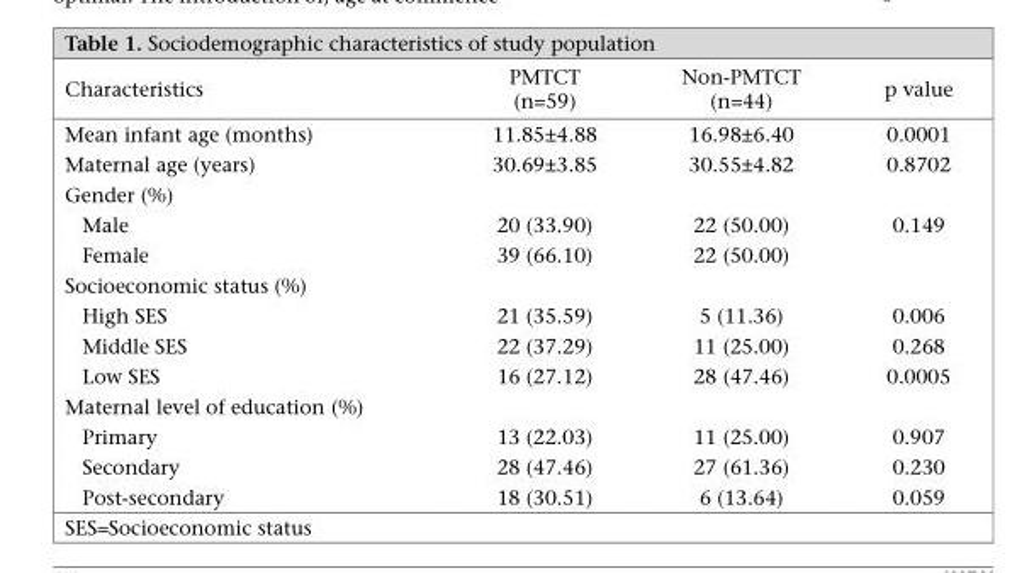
<table><thead><tr><td>Characteristics</td><td>PMTCT (n=59)</td><td>Non-PMTCT (n=44)</td><td>p value</td></tr></thead><tbody><tr><td>Mean infant age (months)</td><td>11.85±4.88</td><td>16.98±6.40</td><td>0.0001</td></tr><tr><td>Maternal age (years)</td><td>30.69±3.85</td><td>30.55±4.82</td><td>0.8702</td></tr><tr><td colspan="4">Gender (%)</td></tr><tr><td>Male</td><td>20 (33.90)</td><td>22 (50.00)</td><td>0.149</td></tr><tr><td>Female</td><td>39 (66.10)</td><td>22 (50.00)</td><td></td></tr><tr><td colspan="4">Socioeconomic status (%)</td></tr><tr><td>High SES</td><td>21 (35.59)</td><td>5 (11.36)</td><td>0.006</td></tr><tr><td>Middle SES</td><td>22 (37.29)</td><td>11 (25.00)</td><td>0.268</td></tr><tr><td>Low SES</td><td>16 (27.12)</td><td>28 (47.46)</td><td>0.0005</td></tr><tr><td colspan="4">Maternal level of education (%)</td></tr><tr><td>Primary</td><td>13 (22.03)</td><td>11 (25.00)</td><td>0.907</td></tr><tr><td>Secondary</td><td>28 (47.46)</td><td>27 (61.36)</td><td>0.230</td></tr><tr><td>Post-secondary</td><td>18 (30.51)</td><td>6 (13.64)</td><td>0.059</td></tr></tbody></table>